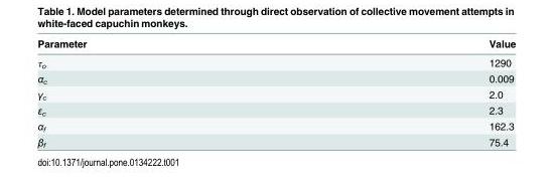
<table><thead><tr><td>Parameter</td><td>Value</td></tr></thead><tbody><tr><td>τ<sub>o</sub></td><td>1290</td></tr><tr><td>α<sub>c</sub></td><td>0.009</td></tr><tr><td>γ<sub>c</sub></td><td>2.0</td></tr><tr><td>εc</td><td>2.3</td></tr><tr><td>α<sub>f</sub></td><td>162.3</td></tr><tr><td>β<sub>f</sub></td><td>75.4</td></tr></tbody></table>